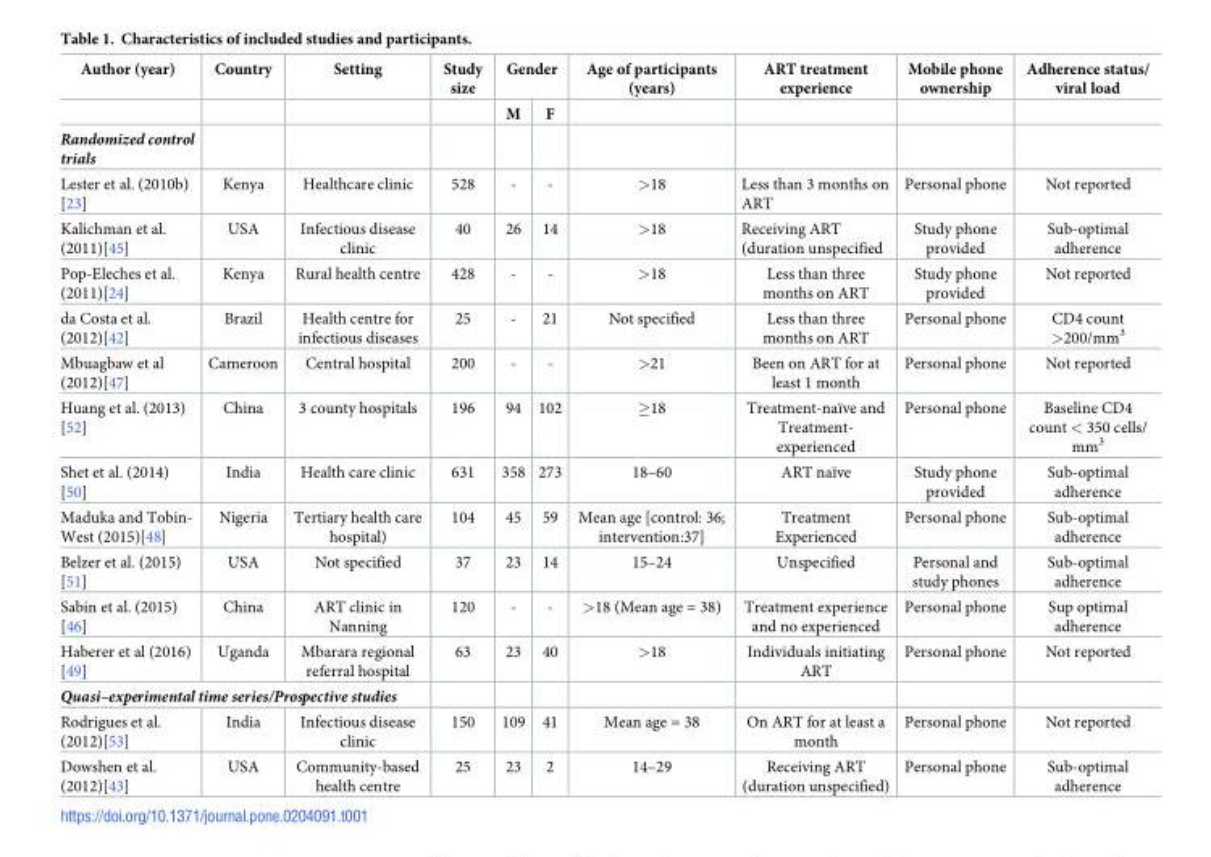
<table><thead><tr><td rowspan="2">Author (year)</td><td rowspan="2">Country</td><td rowspan="2">Setting</td><td rowspan="2">Study size</td><td colspan="2">Gender</td><td rowspan="2">Age of participants (years)</td><td rowspan="2">ART treatment experience</td><td rowspan="2">Mobile phone ownership</td><td rowspan="2">Adherence status/ viral load</td></tr><tr><td>M</td><td>F</td></tr></thead><tbody><tr><td colspan="10">Randomized control trials</td></tr><tr><td>Lester et al. (2010b) [23]</td><td>Kenya</td><td>Healthcare clinic</td><td>528</td><td>-</td><td>-</td><td>&gt;18</td><td>Less than 3 months on ART</td><td>Personal phone</td><td>Not reported</td></tr><tr><td>Kalichman et al. (2011)[45]</td><td>USA</td><td>Infectious disease clinic</td><td>40</td><td>26</td><td>14</td><td>&gt;18</td><td>Receiving ART (duration unspecified</td><td>Study phone provided</td><td>Sub-optimal adherence</td></tr><tr><td>Pop-Eleches et al. (2011)[24]</td><td>Kenya</td><td>Rural health centre</td><td>428</td><td>-</td><td>-</td><td>&gt;18</td><td>Less than three months on ART</td><td>Study phone provided</td><td>Not reported</td></tr><tr><td>da Costa et al. (2012)[42]</td><td>Brazil</td><td>Health centre for infectious diseases</td><td>25</td><td>-</td><td>21</td><td>Not specified</td><td>Less than three months on ART</td><td>Personal phone</td><td>CD4 count &gt;200/mm<sup>3</sup></td></tr><tr><td>Mbuagbaw et al (2012)[47]</td><td>Cameroon</td><td>Central hospital</td><td>200</td><td>-</td><td>-</td><td>&gt;21</td><td>Been on ART for at least 1 month</td><td>Personal phone</td><td>Not reported</td></tr><tr><td>Huang et al. (2013) [52]</td><td>China</td><td>3 county hospitals</td><td>196</td><td>94</td><td>102</td><td>≥18</td><td>Treatment-naïve and Treatment- experienced</td><td>Personal phone</td><td>Baseline CD4 count &lt; 350 cells/ mm<sup>3</sup></td></tr><tr><td>Shet et al. (2014) [50]</td><td>India</td><td>Health care clinic</td><td>631</td><td>358</td><td>273</td><td>18–60</td><td>ART naïve</td><td>Study phone provided</td><td>Sub-optimal adherence</td></tr><tr><td>Maduka and Tobin- West (2015)[48]</td><td>Nigeria</td><td>Tertiary health care hospital)</td><td>104</td><td>45</td><td>59</td><td>Mean age [control: 36; intervention:37]</td><td>Treatment Experienced</td><td>Personal phone</td><td>Sub-optimal adherence</td></tr><tr><td>Belzer et al. (2015) [51]</td><td>USA</td><td>Not specified</td><td>37</td><td>23</td><td>14</td><td>15–24</td><td>Unspecified</td><td>Personal and study phones</td><td>Sub-optimal adherence</td></tr><tr><td>Sabin et al. (2015) [46]</td><td>China</td><td>ART clinic in Nanning</td><td>120</td><td>-</td><td>-</td><td>&gt;18 (Mean age = 38)</td><td>Treatment experience and no experienced</td><td>Personal phone</td><td>Sup optimal adherence</td></tr><tr><td>Haberer et al (2016) [49]</td><td>Uganda</td><td>Mbarara regional referral hospital</td><td>63</td><td>23</td><td>40</td><td>&gt;18</td><td>Individuals initiating ART</td><td>Personal phone</td><td>Not reported</td></tr><tr><td colspan="10">Quasi–experimental time series/Prospective studies</td></tr><tr><td>Rodrigues et al. (2012)[53]</td><td>India</td><td>Infectious disease clinic</td><td>150</td><td>109</td><td>41</td><td>Mean age = 38</td><td>On ART for at least a month</td><td>Personal phone</td><td>Not reported</td></tr><tr><td>Dowshen et al. (2012)[43]</td><td>USA</td><td>Community-based health centre</td><td>25</td><td>23</td><td>2</td><td>14–29</td><td>Receiving ART (duration unspecified)</td><td>Personal phone</td><td>Sub-optimal adherence</td></tr></tbody></table>